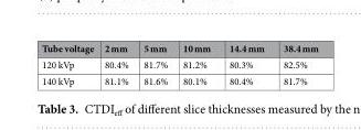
<table><thead><tr><td>Tube voltage</td><td>2 mm</td><td>5 mm</td><td>10 mm</td><td>14.4 mm</td><td>38.4 mm</td></tr></thead><tbody><tr><td>120 kVp</td><td>80.4%</td><td>81.7%</td><td>81.2%</td><td>80.3%</td><td>82.5%</td></tr><tr><td>140 kVp</td><td>81.1%</td><td>81.6%</td><td>80.1%</td><td>80.4%</td><td>81.7%</td></tr></tbody></table>